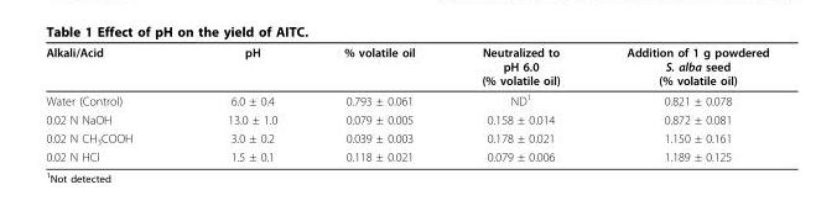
<table><thead><tr><td>Alkali/Acid</td><td>pH</td><td>% volatile oil</td><td>Neutralized to pH 6.0 (% volatile oil)</td><td>Addition of 1 g powdered S. alba seed (% volatile oil)</td></tr></thead><tbody><tr><td>Water (Control)</td><td>6.0 ± 0.4</td><td>0.793 ± 0.061</td><td>ND<sup>1</sup></td><td>0.821 ± 0.078</td></tr><tr><td>0.02 N NaOH</td><td>13.0 ± 1.0</td><td>0.079 ± 0.005</td><td>0.158 ± 0.014</td><td>0.872 ± 0.081</td></tr><tr><td>0.02 N CH<sub>3</sub>COOH</td><td>3.0 ± 0.2</td><td>0.039 ± 0.003</td><td>0.178 ± 0.021</td><td>1.150 ± 0.161</td></tr><tr><td>0.02 N HCl</td><td>1.5 ± 0.1</td><td>0.118 ± 0.021</td><td>0.079 ± 0.006</td><td>1.189 ± 0.125</td></tr></tbody></table>